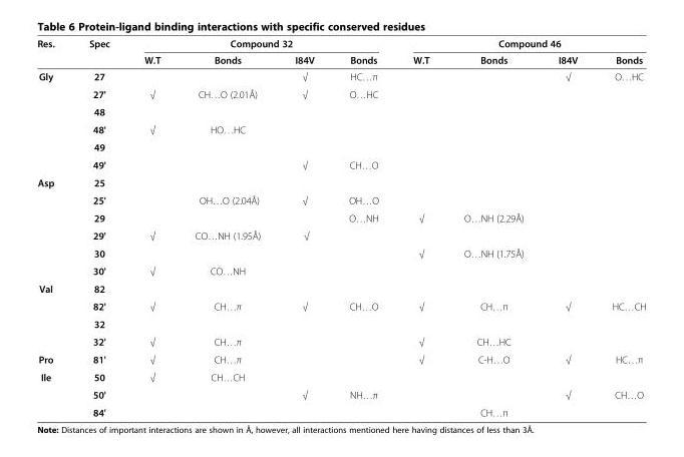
<table><thead><tr><td rowspan="2">Res.</td><td rowspan="2">Spec</td><td colspan="4">Compound 32</td><td colspan="4">Compound 46</td></tr><tr><td>W.T</td><td>Bonds</td><td>I84V</td><td>Bonds</td><td>W.T</td><td>Bonds</td><td>I84V</td><td>Bonds</td></tr></thead><tbody><tr><td rowspan="6">Gly</td><td>27</td><td></td><td></td><td>√</td><td>HC…π</td><td></td><td></td><td>√</td><td>O…HC</td></tr><tr><td>27&#x27;</td><td>√</td><td>CH…O (2.01Å)</td><td>√</td><td>O…HC</td><td></td><td></td><td></td><td></td></tr><tr><td>48</td><td></td><td></td><td></td><td></td><td></td><td></td><td></td><td></td></tr><tr><td>48&#x27;</td><td>√</td><td>HO…HC</td><td></td><td></td><td></td><td></td><td></td><td></td></tr><tr><td>49</td><td></td><td></td><td></td><td></td><td></td><td></td><td></td><td></td></tr><tr><td>49&#x27;</td><td></td><td></td><td>√</td><td>CH…O</td><td></td><td></td><td></td><td></td></tr><tr><td rowspan="6">Asp</td><td>25</td><td></td><td></td><td></td><td></td><td></td><td></td><td></td><td></td></tr><tr><td>25&#x27;</td><td></td><td>OH…O (2.04Å)</td><td>√</td><td>OH…O</td><td></td><td></td><td></td><td></td></tr><tr><td>29</td><td></td><td></td><td></td><td>O…NH</td><td>√</td><td>O…NH (2.29Å)</td><td></td><td></td></tr><tr><td>29&#x27;</td><td>√</td><td>CO…NH (1.95Å)</td><td>√</td><td></td><td></td><td></td><td></td><td></td></tr><tr><td>30</td><td></td><td></td><td></td><td></td><td>√</td><td>O…NH (1.75Å)</td><td></td><td></td></tr><tr><td>30&#x27;</td><td>√</td><td>CO…NH</td><td></td><td></td><td></td><td></td><td></td><td></td></tr><tr><td rowspan="4">Val</td><td>82</td><td></td><td></td><td></td><td></td><td></td><td></td><td></td><td></td></tr><tr><td>82&#x27;</td><td>√</td><td>CH…π</td><td>√</td><td>CH…O</td><td>√</td><td>CH…π</td><td>√</td><td>HC…CH</td></tr><tr><td>32</td><td></td><td></td><td></td><td></td><td></td><td></td><td></td><td></td></tr><tr><td>32&#x27;</td><td>√</td><td>CH…π</td><td></td><td></td><td>√</td><td>CH…HC</td><td></td><td></td></tr><tr><td>Pro</td><td>81&#x27;</td><td>√</td><td>CH…π</td><td></td><td></td><td>√</td><td>C-H…O</td><td>√</td><td>HC…π</td></tr><tr><td rowspan="3">Ile</td><td>50</td><td>√</td><td>CH…CH</td><td></td><td></td><td></td><td></td><td></td><td></td></tr><tr><td>50&#x27;</td><td></td><td></td><td>√</td><td>NH…π</td><td></td><td></td><td>√</td><td>CH…O</td></tr><tr><td>84&#x27;</td><td></td><td></td><td></td><td></td><td></td><td>CH…π</td><td></td><td></td></tr></tbody></table>